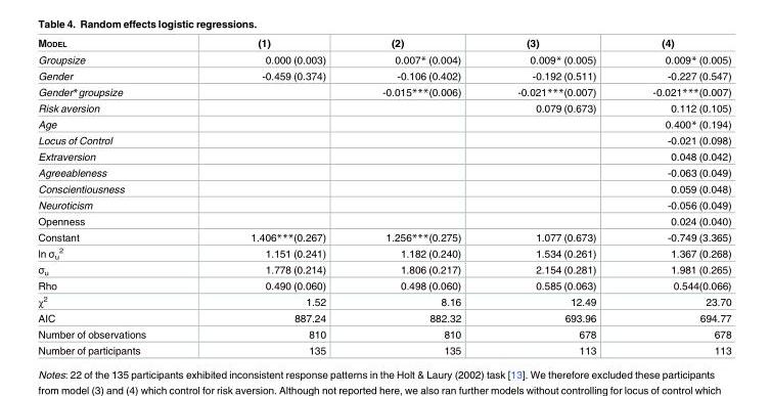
<table><thead><tr><td>MODEL</td><td>(1)</td><td>(2)</td><td>(3)</td><td>(4)</td></tr></thead><tbody><tr><td>Groupsize</td><td>0.000 (0.003)</td><td>0.007* (0.004)</td><td>0.009* (0.005)</td><td>0.009* (0.005)</td></tr><tr><td>Gender</td><td>-0.459 (0.374)</td><td>-0.106 (0.402)</td><td>-0.192 (0.511)</td><td>-0.227 (0.547)</td></tr><tr><td>Gender*groupsize</td><td></td><td>-0.015***(0.006)</td><td>-0.021***(0.007)</td><td>-0.021***(0.007)</td></tr><tr><td>Risk aversion</td><td></td><td></td><td>0.079 (0.673)</td><td>0.112 (0.105)</td></tr><tr><td>Age</td><td></td><td></td><td></td><td>0.400* (0.194)</td></tr><tr><td>Locus of Control</td><td></td><td></td><td></td><td>-0.021 (0.098)</td></tr><tr><td>Extraversion</td><td></td><td></td><td></td><td>0.048 (0.042)</td></tr><tr><td>Agreeableness</td><td></td><td></td><td></td><td>-0.063 (0.049)</td></tr><tr><td>Conscientiousness</td><td></td><td></td><td></td><td>0.059 (0.048)</td></tr><tr><td>Neuroticism</td><td></td><td></td><td></td><td>-0.056 (0.049)</td></tr><tr><td>Openness</td><td></td><td></td><td></td><td>0.024 (0.040)</td></tr><tr><td>Constant</td><td>1.406***(0.267)</td><td>1.256***(0.275)</td><td>1.077 (0.673)</td><td>-0.749 (3.365)</td></tr><tr><td>ln σ<sub>u</sub> <sup>2</sup></td><td>1.151 (0.241)</td><td>1.182 (0.240)</td><td>1.534 (0.261)</td><td>1.367 (0.268)</td></tr><tr><td>σ<sub>u</sub></td><td>1.778 (0.214)</td><td>1.806 (0.217)</td><td>2.154 (0.281)</td><td>1.981 (0.265)</td></tr><tr><td>Rho</td><td>0.490 (0.060)</td><td>0.498 (0.060)</td><td>0.585 (0.063)</td><td>0.544(0.066)</td></tr><tr><td>χ<sup>2</sup></td><td>1.52</td><td>8.16</td><td>12.49</td><td>23.70</td></tr><tr><td>AIC</td><td>887.24</td><td>882.32</td><td>693.96</td><td>694.77</td></tr><tr><td>Number of observations</td><td>810</td><td>810</td><td>678</td><td>678</td></tr><tr><td>Number of participants</td><td>135</td><td>135</td><td>113</td><td>113</td></tr></tbody></table>